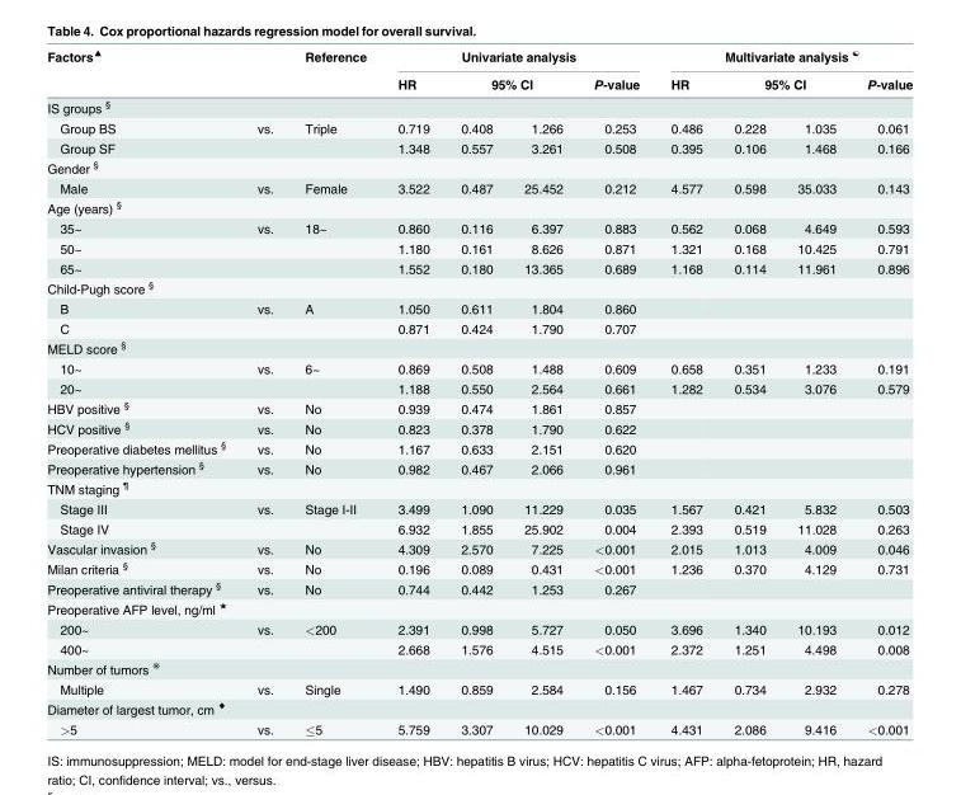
<table><thead><tr><td rowspan="2">Factors▲</td><td rowspan="2"></td><td rowspan="2">Reference</td><td colspan="4">Univariate analysis</td><td colspan="4">Multivariate analysis ☯</td></tr><tr><td>HR</td><td colspan="2">95% CI</td><td>P-value</td><td>HR</td><td colspan="2">95% CI</td><td>P-value</td></tr><tr><td colspan="11">IS groups §</td></tr><tr><td>Group BS</td><td>vs.</td><td>Triple</td><td>0.719</td><td>0.408</td><td>1.266</td><td>0.253</td><td>0.486</td><td>0.228</td><td>1.035</td><td>0.061</td></tr></thead><tbody><tr><td>Group SF</td><td></td><td></td><td>1.348</td><td>0.557</td><td>3.261</td><td>0.508</td><td>0.395</td><td>0.106</td><td>1.468</td><td>0.166</td></tr><tr><td colspan="11">Gender §</td></tr><tr><td>Male</td><td>vs.</td><td>Female</td><td>3.522</td><td>0.487</td><td>25.452</td><td>0.212</td><td>4.577</td><td>0.598</td><td>35.033</td><td>0.143</td></tr><tr><td colspan="11">Age (years) §</td></tr><tr><td>35~</td><td>vs.</td><td>18~</td><td>0.860</td><td>0.116</td><td>6.397</td><td>0.883</td><td>0.562</td><td>0.068</td><td>4.649</td><td>0.593</td></tr><tr><td>50~</td><td></td><td></td><td>1.180</td><td>0.161</td><td>8.626</td><td>0.871</td><td>1.321</td><td>0.168</td><td>10.425</td><td>0.791</td></tr><tr><td>65~</td><td></td><td></td><td>1.552</td><td>0.180</td><td>13.365</td><td>0.689</td><td>1.168</td><td>0.114</td><td>11.961</td><td>0.896</td></tr><tr><td colspan="11">Child-Pugh score §</td></tr><tr><td>B</td><td>vs.</td><td>A</td><td>1.050</td><td>0.611</td><td>1.804</td><td>0.860</td><td></td><td></td><td></td><td></td></tr><tr><td>C</td><td></td><td></td><td>0.871</td><td>0.424</td><td>1.790</td><td>0.707</td><td></td><td></td><td></td><td></td></tr><tr><td colspan="11">MELD score §</td></tr><tr><td>10~</td><td>vs.</td><td>6~</td><td>0.869</td><td>0.508</td><td>1.488</td><td>0.609</td><td>0.658</td><td>0.351</td><td>1.233</td><td>0.191</td></tr><tr><td>20~</td><td></td><td></td><td>1.188</td><td>0.550</td><td>2.564</td><td>0.661</td><td>1.282</td><td>0.534</td><td>3.076</td><td>0.579</td></tr><tr><td>HBV positive §</td><td>vs.</td><td>No</td><td>0.939</td><td>0.474</td><td>1.861</td><td>0.857</td><td></td><td></td><td></td><td></td></tr><tr><td>HCV positive §</td><td>vs.</td><td>No</td><td>0.823</td><td>0.378</td><td>1.790</td><td>0.622</td><td></td><td></td><td></td><td></td></tr><tr><td>Preoperative diabetes mellitus §</td><td>vs.</td><td>No</td><td>1.167</td><td>0.633</td><td>2.151</td><td>0.620</td><td></td><td></td><td></td><td></td></tr><tr><td>Preoperative hypertension §</td><td>vs.</td><td>No</td><td>0.982</td><td>0.467</td><td>2.066</td><td>0.961</td><td></td><td></td><td></td><td></td></tr><tr><td colspan="11">TNM staging ¶</td></tr><tr><td>Stage III</td><td>vs.</td><td>Stage I-II</td><td>3.499</td><td>1.090</td><td>11.229</td><td>0.035</td><td>1.567</td><td>0.421</td><td>5.832</td><td>0.503</td></tr><tr><td>Stage IV</td><td></td><td></td><td>6.932</td><td>1.855</td><td>25.902</td><td>0.004</td><td>2.393</td><td>0.519</td><td>11.028</td><td>0.263</td></tr><tr><td>Vascular invasion §</td><td>vs.</td><td>No</td><td>4.309</td><td>2.570</td><td>7.225</td><td>&lt;0.001</td><td>2.015</td><td>1.013</td><td>4.009</td><td>0.046</td></tr><tr><td>Milan criteria §</td><td>vs.</td><td>No</td><td>0.196</td><td>0.089</td><td>0.431</td><td>&lt;0.001</td><td>1.236</td><td>0.370</td><td>4.129</td><td>0.731</td></tr><tr><td>Preoperative antiviral therapy §</td><td>vs.</td><td>No</td><td>0.744</td><td>0.442</td><td>1.253</td><td>0.267</td><td></td><td></td><td></td><td></td></tr><tr><td colspan="11">Preoperative AFP level, ng/ml ★</td></tr><tr><td>200~</td><td>vs.</td><td>&lt;200</td><td>2.391</td><td>0.998</td><td>5.727</td><td>0.050</td><td>3.696</td><td>1.340</td><td>10.193</td><td>0.012</td></tr><tr><td>400~</td><td></td><td></td><td>2.668</td><td>1.576</td><td>4.515</td><td>&lt;0.001</td><td>2.372</td><td>1.251</td><td>4.498</td><td>0.008</td></tr><tr><td colspan="11">Number of tumors ※</td></tr><tr><td>Multiple</td><td>vs.</td><td>Single</td><td>1.490</td><td>0.859</td><td>2.584</td><td>0.156</td><td>1.467</td><td>0.734</td><td>2.932</td><td>0.278</td></tr><tr><td colspan="11">Diameter of largest tumor, cm ♦</td></tr><tr><td>&gt;5</td><td>vs.</td><td>≤5</td><td>5.759</td><td>3.307</td><td>10.029</td><td>&lt;0.001</td><td>4.431</td><td>2.086</td><td>9.416</td><td>&lt;0.001</td></tr></tbody></table>